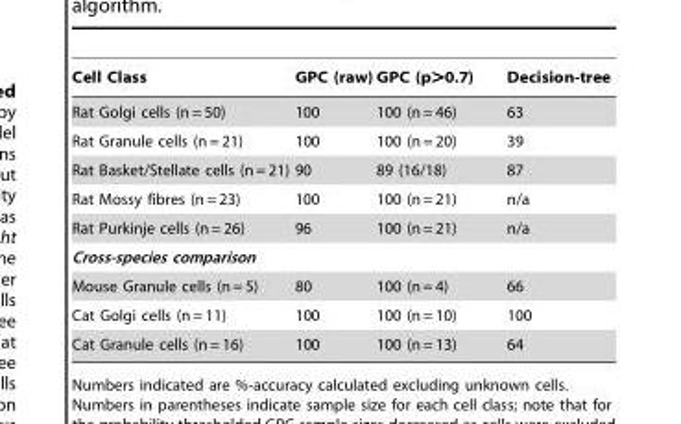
<table><thead><tr><td>Cell Class</td><td>GPC (raw)</td><td>GPC (p&gt;0.7)</td><td>Decision-tree</td></tr></thead><tbody><tr><td>Rat Golgi cells (n = 50)</td><td>100</td><td>100 (n = 46)</td><td>63</td></tr><tr><td>Rat Granule cells (n = 21)</td><td>100</td><td>100 (n = 20)</td><td>39</td></tr><tr><td>Rat Basket/Stellate cells (n = 21)</td><td>90</td><td>89 (16/18)</td><td>87</td></tr><tr><td>Rat Mossy fibres (n = 23)</td><td>100</td><td>100 (n = 21)</td><td>n/a</td></tr><tr><td>Rat Purkinje cells (n = 26)</td><td>96</td><td>100 (n = 21)</td><td>n/a</td></tr><tr><td colspan="4">Cross-species comparison</td></tr><tr><td>Mouse Granule cells (n = 5)</td><td>80</td><td>100 (n = 4)</td><td>66</td></tr><tr><td>Cat Golgi cells (n = 11)</td><td>100</td><td>100 (n = 10)</td><td>100</td></tr><tr><td>Cat Granule cells (n = 16)</td><td>100</td><td>100 (n = 13)</td><td>64</td></tr></tbody></table>